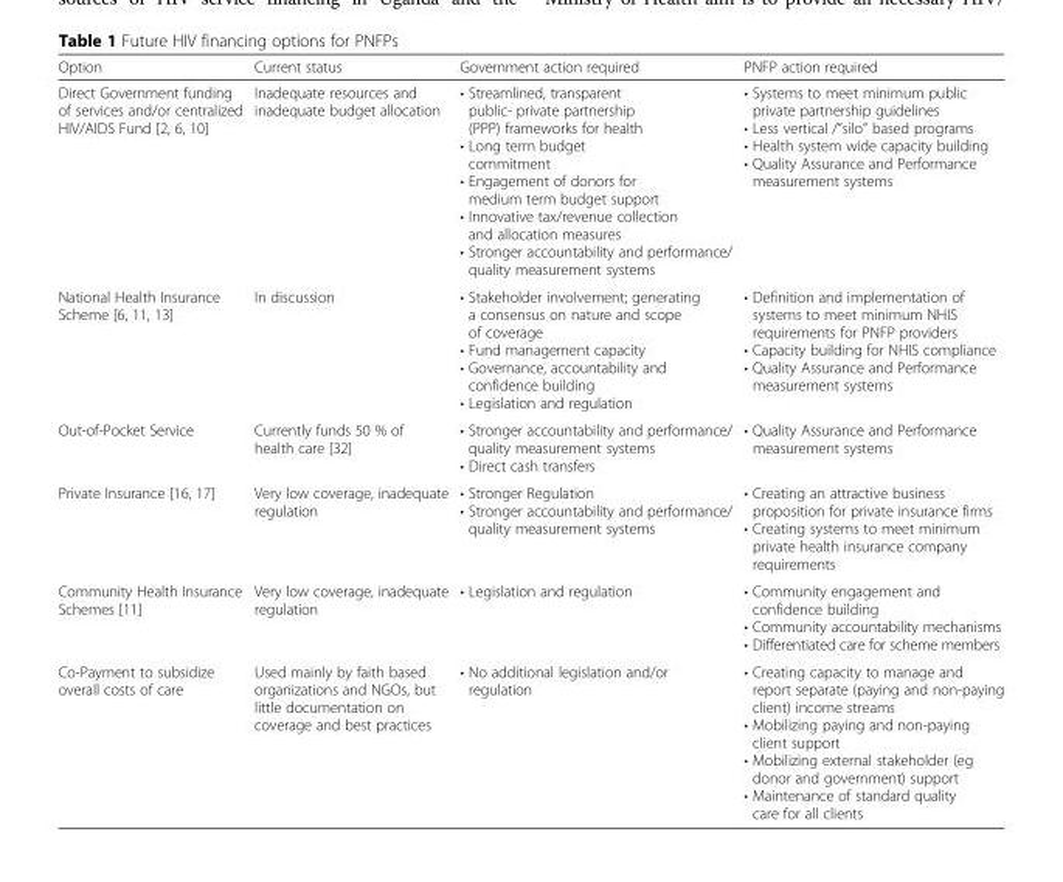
<table><thead><tr><td>Option</td><td>Current status</td><td>Government action required</td><td>PNFP action required</td></tr></thead><tbody><tr><td>Direct Government funding of services and/or centralized HIV/AIDS Fund [2, 6, 10]</td><td>Inadequate resources and inadequate budget allocation</td><td>• Streamlined, transparent public- private partnership (PPP) frameworks for health • Long term budget commitment • Engagement of donors for medium term budget support • Innovative tax/revenue collection and allocation measures • Stronger accountability and performance/ quality measurement systems</td><td>• Systems to meet minimum public private partnership guidelines • Less vertical /“silo” based programs • Health system wide capacity building • Quality Assurance and Performance measurement systems</td></tr><tr><td>National Health Insurance Scheme [6, 11, 13]</td><td>In discussion</td><td>• Stakeholder involvement; generating a consensus on nature and scope of coverage • Fund management capacity • Governance, accountability and confidence building • Legislation and regulation</td><td>• Definition and implementation of systems to meet minimum NHIS requirements for PNFP providers • Capacity building for NHIS compliance • Quality Assurance and Performance measurement systems</td></tr><tr><td>Out-of-Pocket Service</td><td>Currently funds 50 % of health care [32]</td><td>• Stronger accountability and performance/ quality measurement systems • Direct cash transfers</td><td>• Quality Assurance and Performance measurement systems</td></tr><tr><td>Private Insurance [16, 17]</td><td>Very low coverage, inadequate regulation</td><td>• Stronger Regulation • Stronger accountability and performance/ quality measurement systems</td><td>• Creating an attractive business proposition for private insurance firms • Creating systems to meet minimum private health insurance company requirements</td></tr><tr><td>Community Health Insurance Schemes [11]</td><td>Very low coverage, inadequate regulation</td><td>• Legislation and regulation</td><td>• Community engagement and confidence building • Community accountability mechanisms • Differentiated care for scheme members</td></tr><tr><td>Co-Payment to subsidize overall costs of care</td><td>Used mainly by faith based organizations and NGOs, but little documentation on coverage and best practices</td><td>• No additional legislation and/or regulation</td><td>• Creating capacity to manage and report separate (paying and non-paying client) income streams • Mobilizing paying and non-paying client support • Mobilizing external stakeholder (eg donor and government) support • Maintenance of standard quality care for all clients</td></tr></tbody></table>